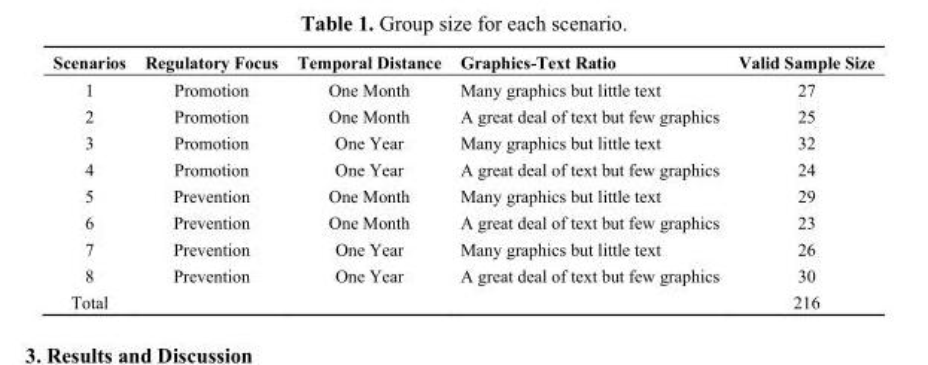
<table><thead><tr><td>Scenarios</td><td>Regulatory Focus</td><td>Temporal Distance</td><td>Graphics-Text Ratio</td><td>Valid Sample Size</td></tr></thead><tbody><tr><td>1</td><td>Promotion</td><td>One Month</td><td>Many graphics but little text</td><td>27</td></tr><tr><td>2</td><td>Promotion</td><td>One Month</td><td>A great deal of text but few graphics</td><td>25</td></tr><tr><td>3</td><td>Promotion</td><td>One Year</td><td>Many graphics but little text</td><td>32</td></tr><tr><td>4</td><td>Promotion</td><td>One Year</td><td>A great deal of text but few graphics</td><td>24</td></tr><tr><td>5</td><td>Prevention</td><td>One Month</td><td>Many graphics but little text</td><td>29</td></tr><tr><td>6</td><td>Prevention</td><td>One Month</td><td>A great deal of text but few graphics</td><td>23</td></tr><tr><td>7</td><td>Prevention</td><td>One Year</td><td>Many graphics but little text</td><td>26</td></tr><tr><td>8</td><td>Prevention</td><td>One Year</td><td>A great deal of text but few graphics</td><td>30</td></tr><tr><td>Total</td><td></td><td></td><td></td><td>216</td></tr></tbody></table>